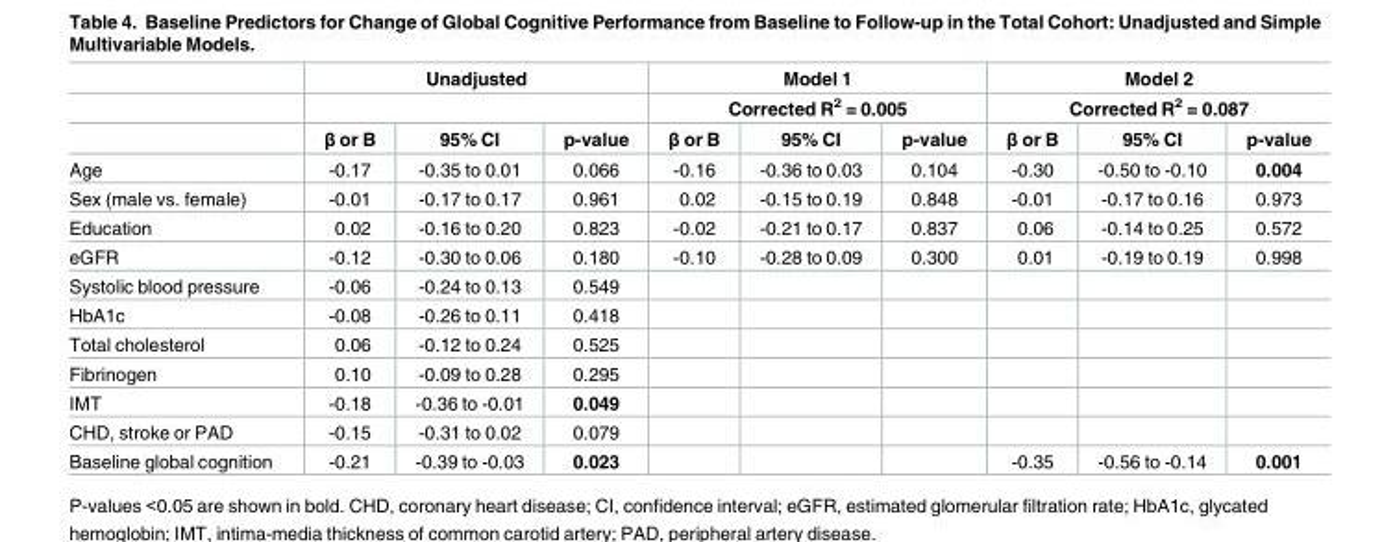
<table><thead><tr><td rowspan="3"></td><td colspan="3">Unadjusted</td><td rowspan="2" colspan="3">Model 1 Corrected R<sup>2</sup> = 0.005</td><td rowspan="2" colspan="3">Model 2 Corrected R<sup>2</sup> = 0.087</td></tr><tr><td rowspan="2">β or B</td><td rowspan="2">95% CI</td><td rowspan="2">p-value</td></tr><tr><td>β or B</td><td>95% CI</td><td>p-value</td><td>β or B</td><td>95% CI</td><td>p-value</td></tr></thead><tbody><tr><td>Age</td><td>-0.17</td><td>-0.35 to 0.01</td><td>0.066</td><td>-0.16</td><td>-0.36 to 0.03</td><td>0.104</td><td>-0.30</td><td>-0.50 to -0.10</td><td>0.004</td></tr><tr><td>Sex (male vs. female)</td><td>-0.01</td><td>-0.17 to 0.17</td><td>0.961</td><td>0.02</td><td>-0.15 to 0.19</td><td>0.848</td><td>-0.01</td><td>-0.17 to 0.16</td><td>0.973</td></tr><tr><td>Education</td><td>0.02</td><td>-0.16 to 0.20</td><td>0.823</td><td>-0.02</td><td>-0.21 to 0.17</td><td>0.837</td><td>0.06</td><td>-0.14 to 0.25</td><td>0.572</td></tr><tr><td>eGFR</td><td>-0.12</td><td>-0.30 to 0.06</td><td>0.180</td><td>-0.10</td><td>-0.28 to 0.09</td><td>0.300</td><td>0.01</td><td>-0.19 to 0.19</td><td>0.998</td></tr><tr><td>Systolic blood pressure</td><td>-0.06</td><td>-0.24 to 0.13</td><td>0.549</td><td></td><td></td><td></td><td></td><td></td><td></td></tr><tr><td>HbA1c</td><td>-0.08</td><td>-0.26 to 0.11</td><td>0.418</td><td></td><td></td><td></td><td></td><td></td><td></td></tr><tr><td>Total cholesterol</td><td>0.06</td><td>-0.12 to 0.24</td><td>0.525</td><td></td><td></td><td></td><td></td><td></td><td></td></tr><tr><td>Fibrinogen</td><td>0.10</td><td>-0.09 to 0.28</td><td>0.295</td><td></td><td></td><td></td><td></td><td></td><td></td></tr><tr><td>IMT</td><td>-0.18</td><td>-0.36 to -0.01</td><td>0.049</td><td></td><td></td><td></td><td></td><td></td><td></td></tr><tr><td>CHD, stroke or PAD</td><td>-0.15</td><td>-0.31 to 0.02</td><td>0.079</td><td></td><td></td><td></td><td></td><td></td><td></td></tr><tr><td>Baseline global cognition</td><td>-0.21</td><td>-0.39 to -0.03</td><td>0.023</td><td></td><td></td><td></td><td>-0.35</td><td>-0.56 to -0.14</td><td>0.001</td></tr></tbody></table>